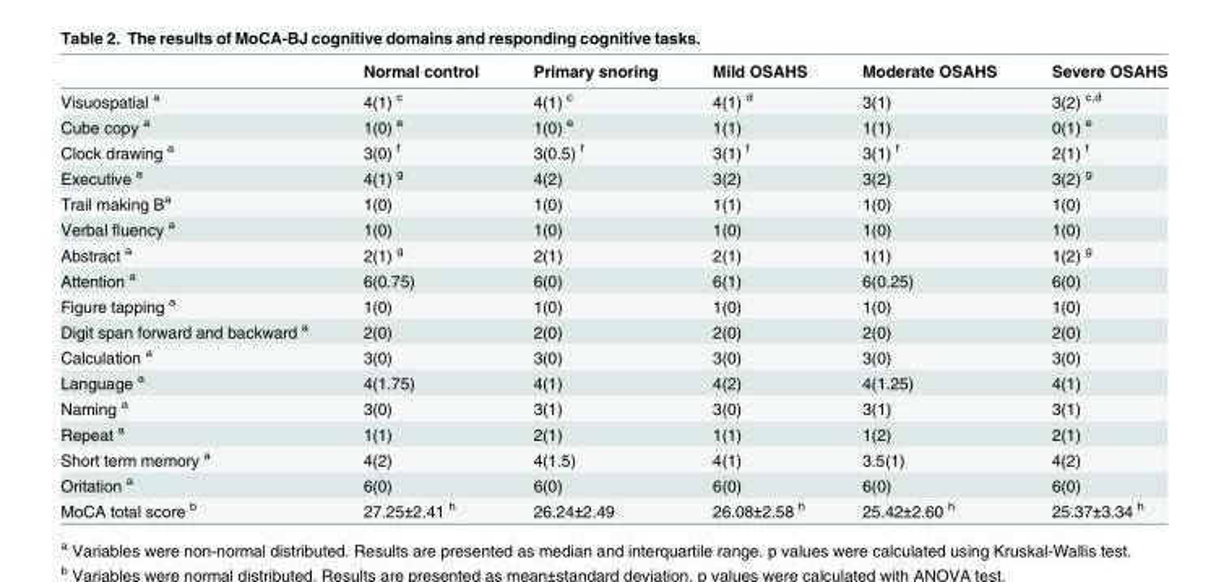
<table><thead><tr><td></td><td>Normal control</td><td>Primary snoring</td><td>Mild OSAHS</td><td>Moderate OSAHS</td><td>Severe OSAHS</td></tr></thead><tbody><tr><td>Visuospatial <sup>a</sup></td><td>4(1) <sup>c</sup></td><td>4(1) <sup>c</sup></td><td>4(1) <sup>d</sup></td><td>3(1)</td><td>3(2) <sup>c,d</sup></td></tr><tr><td>Cube copy <sup>a</sup></td><td>1(0) <sup>e</sup></td><td>1(0) <sup>e</sup></td><td>1(1)</td><td>1(1)</td><td>0(1) <sup>e</sup></td></tr><tr><td>Clock drawing <sup>a</sup></td><td>3(0) <sup>f</sup></td><td>3(0.5) <sup>f</sup></td><td>3(1) <sup>f</sup></td><td>3(1) <sup>f</sup></td><td>2(1) <sup>f</sup></td></tr><tr><td>Executive <sup>a</sup></td><td>4(1) <sup>g</sup></td><td>4(2)</td><td>3(2)</td><td>3(2)</td><td>3(2) <sup>g</sup></td></tr><tr><td>Trail making B<sup>a</sup></td><td>1(0)</td><td>1(0)</td><td>1(1)</td><td>1(0)</td><td>1(0)</td></tr><tr><td>Verbal fluency <sup>a</sup></td><td>1(0)</td><td>1(0)</td><td>1(0)</td><td>1(0)</td><td>1(0)</td></tr><tr><td>Abstract <sup>a</sup></td><td>2(1) <sup>g</sup></td><td>2(1)</td><td>2(1)</td><td>1(1)</td><td>1(2) <sup>g</sup></td></tr><tr><td>Attention <sup>a</sup></td><td>6(0.75)</td><td>6(0)</td><td>6(1)</td><td>6(0.25)</td><td>6(0)</td></tr><tr><td>Figure tapping <sup>a</sup></td><td>1(0)</td><td>1(0)</td><td>1(0)</td><td>1(0)</td><td>1(0)</td></tr><tr><td>Digit span forward and backward <sup>a</sup></td><td>2(0)</td><td>2(0)</td><td>2(0)</td><td>2(0)</td><td>2(0)</td></tr><tr><td>Calculation <sup>a</sup></td><td>3(0)</td><td>3(0)</td><td>3(0)</td><td>3(0)</td><td>3(0)</td></tr><tr><td>Language <sup>a</sup></td><td>4(1.75)</td><td>4(1)</td><td>4(2)</td><td>4(1.25)</td><td>4(1)</td></tr><tr><td>Naming <sup>a</sup></td><td>3(0)</td><td>3(1)</td><td>3(0)</td><td>3(1)</td><td>3(1)</td></tr><tr><td>Repeat <sup>a</sup></td><td>1(1)</td><td>2(1)</td><td>1(1)</td><td>1(2)</td><td>2(1)</td></tr><tr><td>Short term memory <sup>a</sup></td><td>4(2)</td><td>4(1.5)</td><td>4(1)</td><td>3.5(1)</td><td>4(2)</td></tr><tr><td>Oritation <sup>a</sup></td><td>6(0)</td><td>6(0)</td><td>6(0)</td><td>6(0)</td><td>6(0)</td></tr><tr><td>MoCA total score <sup>b</sup></td><td>27.25±2.41 <sup>h</sup></td><td>26.24±2.49</td><td>26.08±2.58 <sup>h</sup></td><td>25.42±2.60 <sup>h</sup></td><td>25.37±3.34 <sup>h</sup></td></tr></tbody></table>